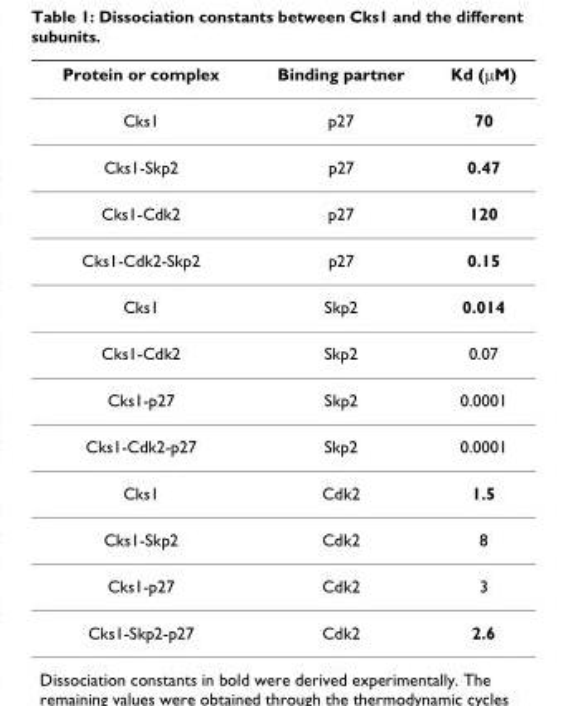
<table><thead><tr><td>Protein or complex</td><td>Binding partner</td><td>Kd (μM)</td></tr></thead><tbody><tr><td>Cks1</td><td>p27</td><td>70</td></tr><tr><td>Cks1-Skp2</td><td>p27</td><td>0.47</td></tr><tr><td>Cks1-Cdk2</td><td>p27</td><td>120</td></tr><tr><td>Cks1-Cdk2-Skp2</td><td>p27</td><td>0.15</td></tr><tr><td>Cks1</td><td>Skp2</td><td>0.014</td></tr><tr><td>Cks1-Cdk2</td><td>Skp2</td><td>0.07</td></tr><tr><td>Cks1-p27</td><td>Skp2</td><td>0.0001</td></tr><tr><td>Cks1-Cdk2-p27</td><td>Skp2</td><td>0.0001</td></tr><tr><td>Cks1</td><td>Cdk2</td><td>1.5</td></tr><tr><td>Cks1-Skp2</td><td>Cdk2</td><td>8</td></tr><tr><td>Cks1-p27</td><td>Cdk2</td><td>3</td></tr><tr><td>Cks1-Skp2-p27</td><td>Cdk2</td><td>2.6</td></tr></tbody></table>